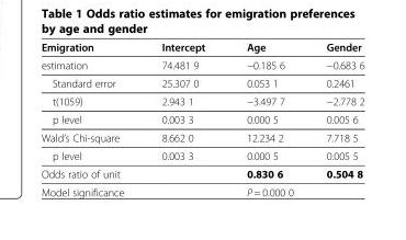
<table><thead><tr><td>Emigration</td><td>Intercept</td><td>Age</td><td>Gender</td></tr></thead><tbody><tr><td>estimation</td><td>74.481 9</td><td>−0.185 6</td><td>−0.683 6</td></tr><tr><td>Standard error</td><td>25.307 0</td><td>0.053 1</td><td>0.2461</td></tr><tr><td>t(1059)</td><td>2.943 1</td><td>−3.497 7</td><td>−2.778 2</td></tr><tr><td>p level</td><td>0.003 3</td><td>0.000 5</td><td>0.005 6</td></tr><tr><td>Wald’s Chi-square</td><td>8.662 0</td><td>12.234 2</td><td>7.718 5</td></tr><tr><td>p level</td><td>0.003 3</td><td>0.000 5</td><td>0.005 5</td></tr><tr><td>Odds ratio of unit</td><td></td><td>0.830 6</td><td>0.504 8</td></tr><tr><td colspan="2">Model significance</td><td colspan="2">P = 0.000 0</td></tr></tbody></table>